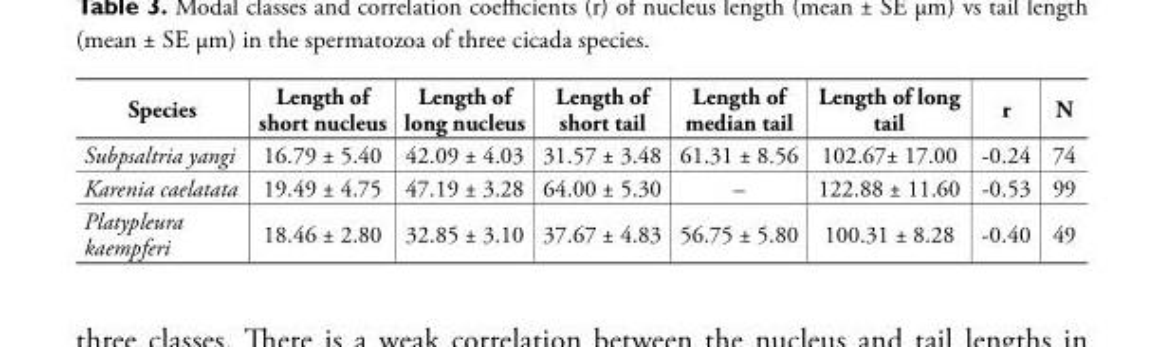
<table><tbody><tr><td>Species</td><td>Length of short nucleus</td><td>Length of long nucleus</td><td>Length of short tail</td><td>Length of median tail</td><td>Length of long tail</td><td>r</td><td>N</td></tr><tr><td>Subpsaltria yangi</td><td>16.79 ± 5.40</td><td>42.09 ± 4.03</td><td>31.57 ± 3.48</td><td>61.31 ± 8.56</td><td>102.67± 17.00</td><td>-0.24</td><td>74</td></tr><tr><td>Karenia caelatata</td><td>19.49 ± 4.75</td><td>47.19 ± 3.28</td><td>64.00 ± 5.30</td><td>–</td><td>122.88 ± 11.60</td><td>-0.53</td><td>99</td></tr><tr><td>Platypleura kaempferi</td><td>18.46 ± 2.80</td><td>32.85 ± 3.10</td><td>37.67 ± 4.83</td><td>56.75 ± 5.80</td><td>100.31 ± 8.28</td><td>-0.40</td><td>49</td></tr></tbody></table>